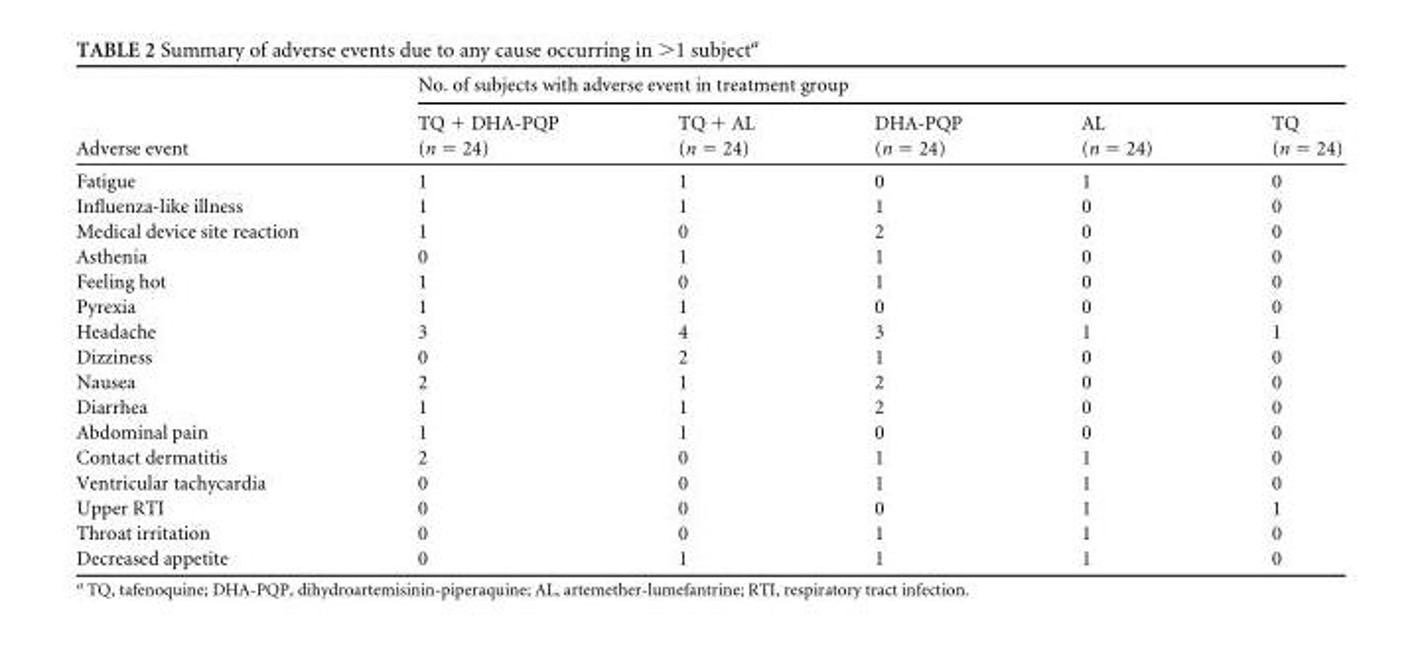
<table><thead><tr><td rowspan="2">Adverse event</td><td colspan="5">No. of subjects with adverse event in treatment group</td></tr><tr><td>TQ + DHA-PQP (n = 24)</td><td>TQ + AL (n = 24)</td><td>DHA-PQP (n = 24)</td><td>AL (n = 24)</td><td>TQ (n = 24)</td></tr></thead><tbody><tr><td>Fatigue</td><td>1</td><td>1</td><td>0</td><td>1</td><td>0</td></tr><tr><td>Influenza-like illness</td><td>1</td><td>1</td><td>1</td><td>0</td><td>0</td></tr><tr><td>Medical device site reaction</td><td>1</td><td>0</td><td>2</td><td>0</td><td>0</td></tr><tr><td>Asthenia</td><td>0</td><td>1</td><td>1</td><td>0</td><td>0</td></tr><tr><td>Feeling hot</td><td>1</td><td>0</td><td>1</td><td>0</td><td>0</td></tr><tr><td>Pyrexia</td><td>1</td><td>1</td><td>0</td><td>0</td><td>0</td></tr><tr><td>Headache</td><td>3</td><td>4</td><td>3</td><td>1</td><td>1</td></tr><tr><td>Dizziness</td><td>0</td><td>2</td><td>1</td><td>0</td><td>0</td></tr><tr><td>Nausea</td><td>2</td><td>1</td><td>2</td><td>0</td><td>0</td></tr><tr><td>Diarrhea</td><td>1</td><td>1</td><td>2</td><td>0</td><td>0</td></tr><tr><td>Abdominal pain</td><td>1</td><td>1</td><td>0</td><td>0</td><td>0</td></tr><tr><td>Contact dermatitis</td><td>2</td><td>0</td><td>1</td><td>1</td><td>0</td></tr><tr><td>Ventricular tachycardia</td><td>0</td><td>0</td><td>1</td><td>1</td><td>0</td></tr><tr><td>Upper RTI</td><td>0</td><td>0</td><td>0</td><td>1</td><td>1</td></tr><tr><td>Throat irritation</td><td>0</td><td>0</td><td>1</td><td>1</td><td>0</td></tr><tr><td>Decreased appetite</td><td>0</td><td>1</td><td>1</td><td>1</td><td>0</td></tr></tbody></table>